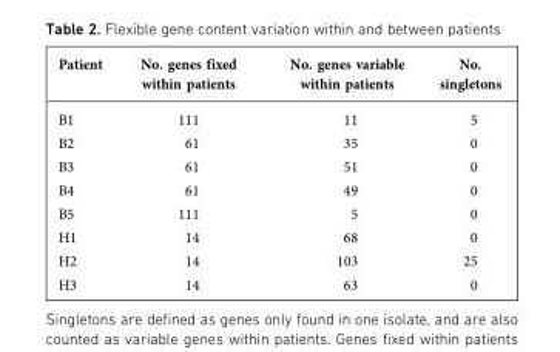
<table><thead><tr><td>Patient</td><td>No. genes fixed within patients</td><td>No. genes variable within patients</td><td>No. singletons</td></tr></thead><tbody><tr><td>B1</td><td>111</td><td>11</td><td>5</td></tr><tr><td>B2</td><td>61</td><td>35</td><td>0</td></tr><tr><td>B3</td><td>61</td><td>51</td><td>0</td></tr><tr><td>B4</td><td>61</td><td>49</td><td>0</td></tr><tr><td>B5</td><td>111</td><td>5</td><td>0</td></tr><tr><td>H1</td><td>14</td><td>68</td><td>0</td></tr><tr><td>H2</td><td>14</td><td>103</td><td>25</td></tr><tr><td>H3</td><td>14</td><td>63</td><td>0</td></tr></tbody></table>